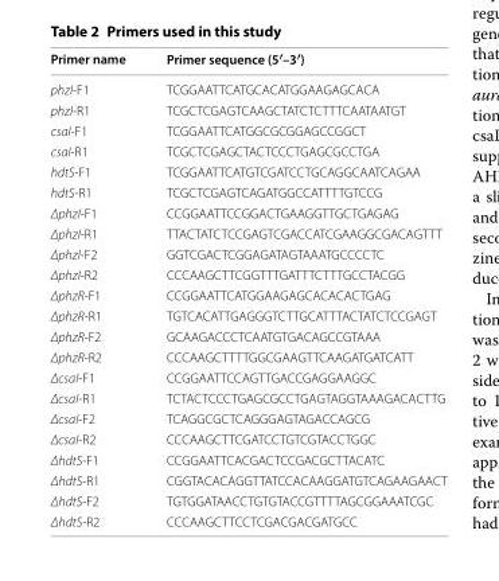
<table><thead><tr><td>Primer name</td><td>Primer sequence (5′–3′)</td></tr></thead><tbody><tr><td>phzI-F1</td><td>TCGGAATTCATGCACATGGAAGAGCACA</td></tr><tr><td>phzI-R1</td><td>TCGCTCGAGTCAAGCTATCTCTTTCAATAATGT</td></tr><tr><td>csaI-F1</td><td>TCGGAATTCATGGCGCGGAGCCGGCT</td></tr><tr><td>csaI-R1</td><td>TCGCTCGAGCTACTCCCTGAGCGCCTGA</td></tr><tr><td>hdtS-F1</td><td>TCGGAATTCATGTCGATCCTGCAGGCAATCAGAA</td></tr><tr><td>hdtS-R1</td><td>TCGCTCGAGTCAGATGGCCATTTTGTCCG</td></tr><tr><td>ΔphzI-F1</td><td>CCGGAATTCCGGACTGAAGGTTGCTGAGAG</td></tr><tr><td>ΔphzI-R1</td><td>TTACTATCTCCGAGTCGACCATCGAAGGCGACAGTTT</td></tr><tr><td>ΔphzI-F2</td><td>GGTCGACTCGGAGATAGTAAATGCCCCTC</td></tr><tr><td>ΔphzI-R2</td><td>CCCAAGCTTCGGTTTGATTTCTTTGCCTACGG</td></tr><tr><td>ΔphzR-F1</td><td>CCGGAATTCATGGAAGAGCACACACTGAG</td></tr><tr><td>ΔphzR-R1</td><td>TGTCACATTGAGGGTCTTGCATTTACTATCTCCGAGT</td></tr><tr><td>ΔphzR-F2</td><td>GCAAGACCCTCAATGTGACAGCCGTAAA</td></tr><tr><td>ΔphzR-R2</td><td>CCCAAGCTTTTGGCGAAGTTCAAGATGATCATT</td></tr><tr><td>ΔcsaI-F1</td><td>CCGGAATTCCAGTTGACCGAGGAAGGC</td></tr><tr><td>ΔcsaI-R1</td><td>TCTACTCCCTGAGCGCCTGAGTAGGTAAAGACACTTG</td></tr><tr><td>ΔcsaI-F2</td><td>TCAGGCGCTCAGGGAGTAGACCAGCG</td></tr><tr><td>ΔcsaI-R2</td><td>CCCAAGCTTCGATCCTGTCGTACCTGGC</td></tr><tr><td>ΔhdtS-F1</td><td>CCGGAATTCACGACTCCGACGCTTACATC</td></tr><tr><td>ΔhdtS-R1</td><td>CGGTACACAGGTTATCCACAAGGATGTCAGAAGAACT</td></tr><tr><td>ΔhdtS-F2</td><td>TGTGGATAACCTGTGTACCGTTTTAGCGGAAATCGC</td></tr><tr><td>ΔhdtS-R2</td><td>CCCAAGCTTCCTCGACGACGATGCC</td></tr></tbody></table>